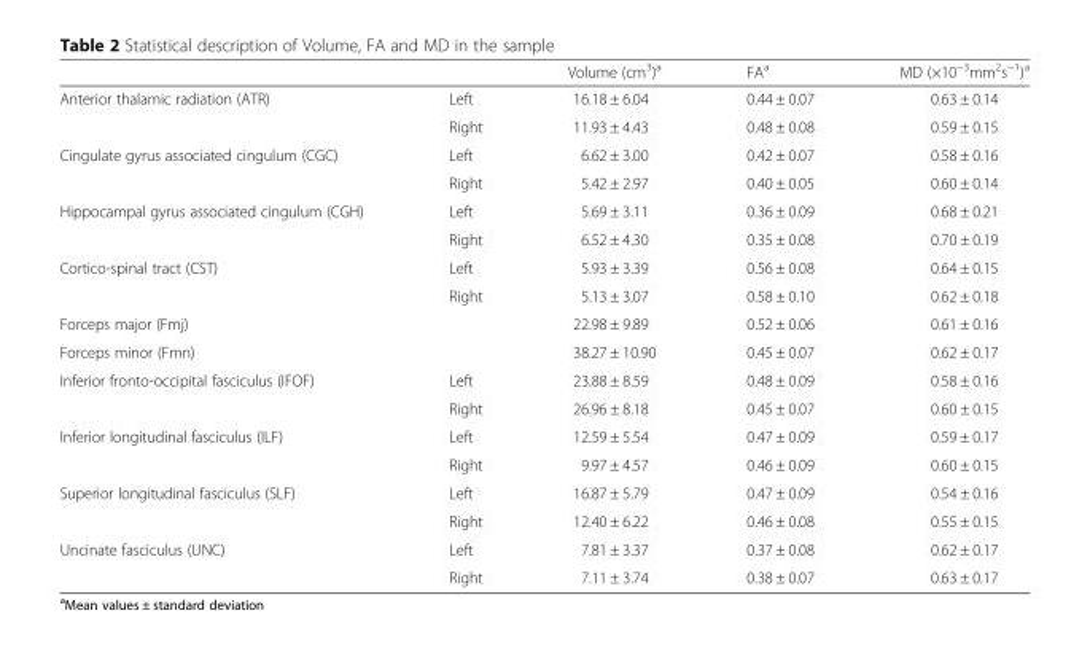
<table><thead><tr><td></td><td></td><td>Volume (cm<sup>3</sup>)<sup>a</sup></td><td>FA<sup>a</sup></td><td>MD (×10<sup>−3</sup>mm<sup>2</sup>s<sup>−1</sup>)<sup>a</sup></td></tr></thead><tbody><tr><td rowspan="2">Anterior thalamic radiation (ATR)</td><td>Left</td><td>16.18 ± 6.04</td><td>0.44 ± 0.07</td><td>0.63 ± 0.14</td></tr><tr><td>Right</td><td>11.93 ± 4.43</td><td>0.48 ± 0.08</td><td>0.59 ± 0.15</td></tr><tr><td rowspan="2">Cingulate gyrus associated cingulum (CGC)</td><td>Left</td><td>6.62 ± 3.00</td><td>0.42 ± 0.07</td><td>0.58 ± 0.16</td></tr><tr><td>Right</td><td>5.42 ± 2.97</td><td>0.40 ± 0.05</td><td>0.60 ± 0.14</td></tr><tr><td rowspan="2">Hippocampal gyrus associated cingulum (CGH)</td><td>Left</td><td>5.69 ± 3.11</td><td>0.36 ± 0.09</td><td>0.68 ± 0.21</td></tr><tr><td>Right</td><td>6.52 ± 4.30</td><td>0.35 ± 0.08</td><td>0.70 ± 0.19</td></tr><tr><td rowspan="2">Cortico-spinal tract (CST)</td><td>Left</td><td>5.93 ± 3.39</td><td>0.56 ± 0.08</td><td>0.64 ± 0.15</td></tr><tr><td>Right</td><td>5.13 ± 3.07</td><td>0.58 ± 0.10</td><td>0.62 ± 0.18</td></tr><tr><td>Forceps major (Fmj)</td><td></td><td>22.98 ± 9.89</td><td>0.52 ± 0.06</td><td>0.61 ± 0.16</td></tr><tr><td>Forceps minor (Fmn)</td><td></td><td>38.27 ± 10.90</td><td>0.45 ± 0.07</td><td>0.62 ± 0.17</td></tr><tr><td rowspan="2">Inferior fronto-occipital fasciculus (IFOF)</td><td>Left</td><td>23.88 ± 8.59</td><td>0.48 ± 0.09</td><td>0.58 ± 0.16</td></tr><tr><td>Right</td><td>26.96 ± 8.18</td><td>0.45 ± 0.07</td><td>0.60 ± 0.15</td></tr><tr><td rowspan="2">Inferior longitudinal fasciculus (ILF)</td><td>Left</td><td>12.59 ± 5.54</td><td>0.47 ± 0.09</td><td>0.59 ± 0.17</td></tr><tr><td>Right</td><td>9.97 ± 4.57</td><td>0.46 ± 0.09</td><td>0.60 ± 0.15</td></tr><tr><td rowspan="2">Superior longitudinal fasciculus (SLF)</td><td>Left</td><td>16.87 ± 5.79</td><td>0.47 ± 0.09</td><td>0.54 ± 0.16</td></tr><tr><td>Right</td><td>12.40 ± 6.22</td><td>0.46 ± 0.08</td><td>0.55 ± 0.15</td></tr><tr><td rowspan="2">Uncinate fasciculus (UNC)</td><td>Left</td><td>7.81 ± 3.37</td><td>0.37 ± 0.08</td><td>0.62 ± 0.17</td></tr><tr><td>Right</td><td>7.11 ± 3.74</td><td>0.38 ± 0.07</td><td>0.63 ± 0.17</td></tr></tbody></table>